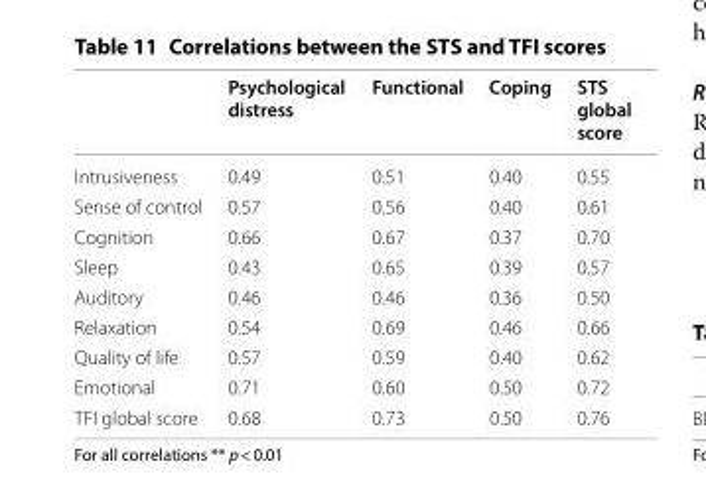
<table><thead><tr><td></td><td>Psychological distress</td><td>Functional</td><td>Coping</td><td>STS global score</td></tr></thead><tbody><tr><td>Intrusiveness</td><td>0.49</td><td>0.51</td><td>0.40</td><td>0.55</td></tr><tr><td>Sense of control</td><td>0.57</td><td>0.56</td><td>0.40</td><td>0.61</td></tr><tr><td>Cognition</td><td>0.66</td><td>0.67</td><td>0.37</td><td>0.70</td></tr><tr><td>Sleep</td><td>0.43</td><td>0.65</td><td>0.39</td><td>0.57</td></tr><tr><td>Auditory</td><td>0.46</td><td>0.46</td><td>0.36</td><td>0.50</td></tr><tr><td>Relaxation</td><td>0.54</td><td>0.69</td><td>0.46</td><td>0.66</td></tr><tr><td>Quality of life</td><td>0.57</td><td>0.59</td><td>0.40</td><td>0.62</td></tr><tr><td>Emotional</td><td>0.71</td><td>0.60</td><td>0.50</td><td>0.72</td></tr><tr><td>TFI global score</td><td>0.68</td><td>0.73</td><td>0.50</td><td>0.76</td></tr></tbody></table>